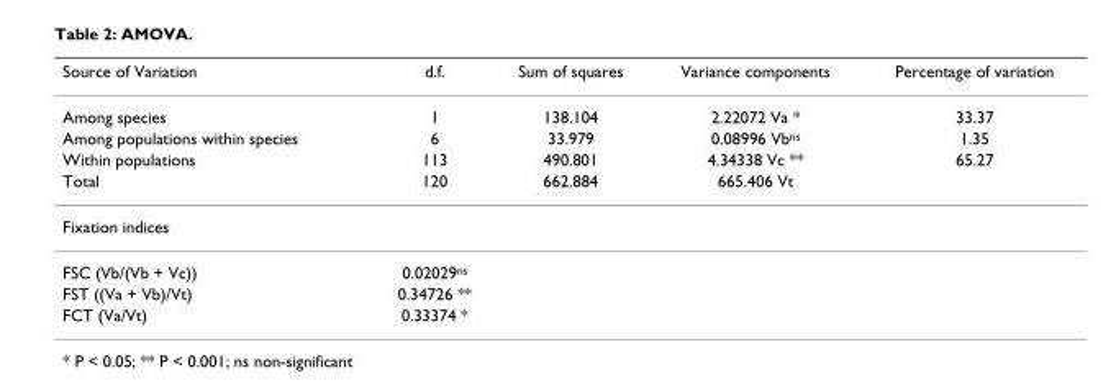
<table><thead><tr><td>Source of Variation</td><td>d.f.</td><td>Sum of squares</td><td>Variance components</td><td>Percentage of variation</td></tr></thead><tbody><tr><td>Among species</td><td>1</td><td>138.104</td><td>2.22072 Va *</td><td>33.37</td></tr><tr><td>Among populations within species</td><td>6</td><td>33.979</td><td>0.08996 Vb<sup>ns</sup></td><td>1.35</td></tr><tr><td>Within populations</td><td>113</td><td>490.801</td><td>4.34338 Vc **</td><td>65.27</td></tr><tr><td>Total</td><td>120</td><td>662.884</td><td>665.406 Vt</td><td></td></tr><tr><td colspan="5">Fixation indices</td></tr><tr><td>FSC (Vb/(Vb + Vc))</td><td>0.02029<sup>ns</sup></td><td></td><td></td><td></td></tr><tr><td>FST ((Va + Vb)/Vt)</td><td>0.34726 **</td><td></td><td></td><td></td></tr><tr><td>FCT (Va/Vt)</td><td>0.33374 *</td><td></td><td></td><td></td></tr></tbody></table>